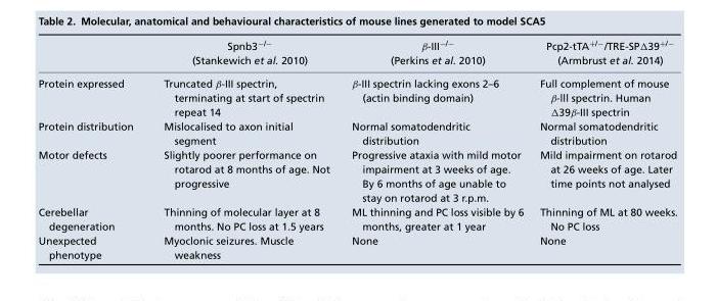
<table><thead><tr><td rowspan="2"></td><td rowspan="2">Spnb3<sup>−/−</sup> (Stankewich et al. 2010)</td><td rowspan="2">β-III<sup>−/−</sup> (Perkins et al. 2010)</td><td rowspan="2">Pcp2-tTA<sup>+/−</sup>/TRE-SPΔ39<sup>+/−</sup> (Armbrust et al. 2014)</td></tr><tr></tr></thead><tbody><tr><td>Protein expressed</td><td>Truncated β-III spectrin, terminating at start of spectrin repeat 14</td><td>β-III spectrin lacking exons 2–6 (actin binding domain)</td><td>Full complement of mouse β-lll spectrin. Human Δ39β-III spectrin</td></tr><tr><td>Protein distribution</td><td>Mislocalised to axon initial segment</td><td>Normal somatodendritic distribution</td><td>Normal somatodendritic distribution</td></tr><tr><td>Motor defects</td><td>Slightly poorer performance on rotarod at 8 months of age. Not progressive</td><td>Progressive ataxia with mild motor impairment at 3 weeks of age. By 6 months of age unable to stay on rotarod at 3 r.p.m.</td><td>Mild impairment on rotarod at 26 weeks of age. Later time points not analysed</td></tr><tr><td>Cerebellar degeneration</td><td>Thinning of molecular layer at 8 months. No PC loss at 1.5 years</td><td>ML thinning and PC loss visible by 6 months, greater at 1 year</td><td>Thinning of ML at 80 weeks. No PC loss</td></tr><tr><td>Unexpected phenotype</td><td>Myoclonic seizures. Muscle weakness</td><td>None</td><td>None</td></tr></tbody></table>